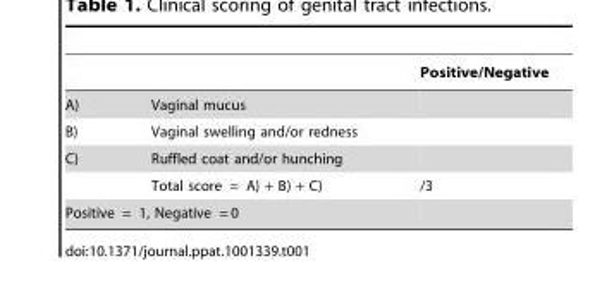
<table><thead><tr><td></td><td></td><td>Positive/Negative</td></tr></thead><tbody><tr><td>A)</td><td>Vaginal mucus</td><td></td></tr><tr><td>B)</td><td>Vaginal swelling and/or redness</td><td></td></tr><tr><td rowspan="2">C)</td><td>Ruffled coat and/or hunching</td><td></td></tr><tr><td>Total score = A) + B) + C)</td><td>/3</td></tr><tr><td colspan="2">Positive = 1, Negative = 0</td><td></td></tr></tbody></table>